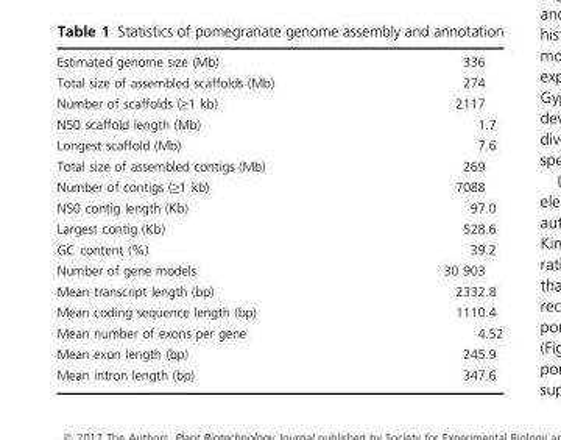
<table><tbody><tr><td>Estimated genome size (Mb)</td><td>336</td></tr><tr><td>Total size of assembled scaffolds (Mb)</td><td>274</td></tr><tr><td>Number of scaffolds (≥1 kb)</td><td>2117</td></tr><tr><td>N50 scaffold length (Mb)</td><td>1.7</td></tr><tr><td>Longest scaffold (Mb)</td><td>7.6</td></tr><tr><td>Total size of assembled contigs (Mb)</td><td>269</td></tr><tr><td>Number of contigs (≥1 kb)</td><td>7088</td></tr><tr><td>N50 contig length (Kb)</td><td>97.0</td></tr><tr><td>Largest contig (Kb)</td><td>528.6</td></tr><tr><td>GC content (%)</td><td>39.2</td></tr><tr><td>Number of gene models</td><td>30 903</td></tr><tr><td>Mean transcript length (bp)</td><td>2332.8</td></tr><tr><td>Mean coding sequence length (bp)</td><td>1110.4</td></tr><tr><td>Mean number of exons per gene</td><td>4.52</td></tr><tr><td>Mean exon length (bp)</td><td>245.9</td></tr><tr><td>Mean intron length (bp)</td><td>347.6</td></tr></tbody></table>